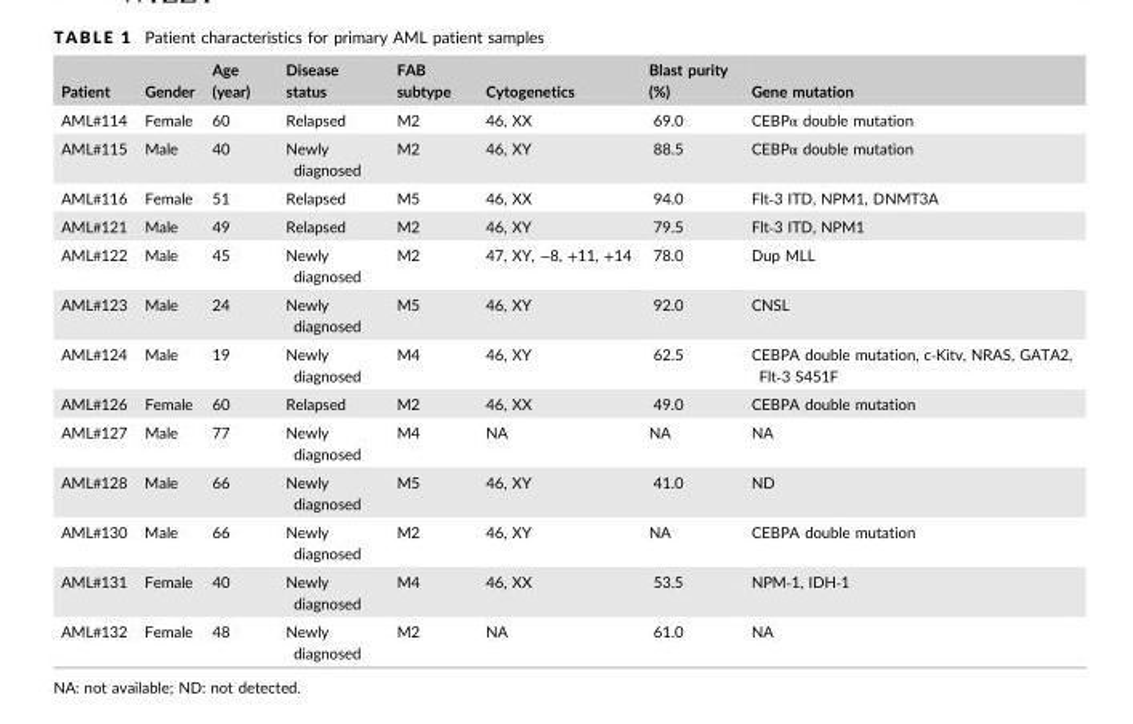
<table><thead><tr><td>Patient</td><td>Gender</td><td>Age (year)</td><td>Disease status</td><td>FAB subtype</td><td>Cytogenetics</td><td>Blast purity (%)</td><td>Gene mutation</td></tr></thead><tbody><tr><td>AML#114</td><td>Female</td><td>60</td><td>Relapsed</td><td>M2</td><td>46, XX</td><td>69.0</td><td>CEBPα double mutation</td></tr><tr><td>AML#115</td><td>Male</td><td>40</td><td>Newly diagnosed</td><td>M2</td><td>46, XY</td><td>88.5</td><td>CEBPα double mutation</td></tr><tr><td>AML#116</td><td>Female</td><td>51</td><td>Relapsed</td><td>M5</td><td>46, XX</td><td>94.0</td><td>Flt‐3 ITD, NPM1, DNMT3A</td></tr><tr><td>AML#121</td><td>Male</td><td>49</td><td>Relapsed</td><td>M2</td><td>46, XY</td><td>79.5</td><td>Flt‐3 ITD, NPM1</td></tr><tr><td>AML#122</td><td>Male</td><td>45</td><td>Newly diagnosed</td><td>M2</td><td>47, XY, −8, +11, +14</td><td>78.0</td><td>Dup MLL</td></tr><tr><td>AML#123</td><td>Male</td><td>24</td><td>Newly diagnosed</td><td>M5</td><td>46, XY</td><td>92.0</td><td>CNSL</td></tr><tr><td>AML#124</td><td>Male</td><td>19</td><td>Newly diagnosed</td><td>M4</td><td>46, XY</td><td>62.5</td><td>CEBPA double mutation, c‐Kitv, NRAS, GATA2, Flt‐3 S451F</td></tr><tr><td>AML#126</td><td>Female</td><td>60</td><td>Relapsed</td><td>M2</td><td>46, XX</td><td>49.0</td><td>CEBPA double mutation</td></tr><tr><td>AML#127</td><td>Male</td><td>77</td><td>Newly diagnosed</td><td>M4</td><td>NA</td><td>NA</td><td>NA</td></tr><tr><td>AML#128</td><td>Male</td><td>66</td><td>Newly diagnosed</td><td>M5</td><td>46, XY</td><td>41.0</td><td>ND</td></tr><tr><td>AML#130</td><td>Male</td><td>66</td><td>Newly diagnosed</td><td>M2</td><td>46, XY</td><td>NA</td><td>CEBPA double mutation</td></tr><tr><td>AML#131</td><td>Female</td><td>40</td><td>Newly diagnosed</td><td>M4</td><td>46, XX</td><td>53.5</td><td>NPM‐1, IDH‐1</td></tr><tr><td>AML#132</td><td>Female</td><td>48</td><td>Newly diagnosed</td><td>M2</td><td>NA</td><td>61.0</td><td>NA</td></tr></tbody></table>